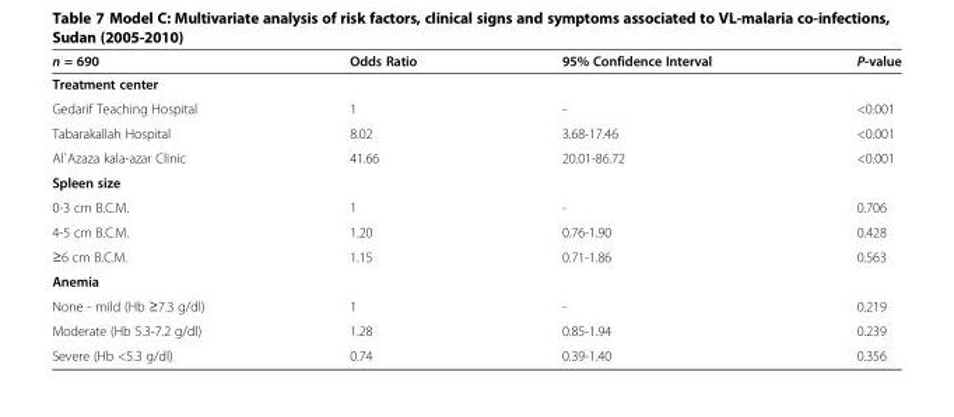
<table><thead><tr><td>n = 690</td><td>Odds Ratio</td><td>95% Confidence Interval</td><td>P-value</td></tr></thead><tbody><tr><td colspan="4">Treatment center</td></tr><tr><td>Gedarif Teaching Hospital</td><td>1</td><td>-</td><td>&lt;0.001</td></tr><tr><td>Tabarakallah Hospital</td><td>8.02</td><td>3.68-17.46</td><td>&lt;0.001</td></tr><tr><td>Al`Azaza kala-azar Clinic</td><td>41.66</td><td>20.01-86.72</td><td>&lt;0.001</td></tr><tr><td colspan="4">Spleen size</td></tr><tr><td>0-3 cm B.C.M.</td><td>1</td><td>-</td><td>0.706</td></tr><tr><td>4-5 cm B.C.M.</td><td>1.20</td><td>0.76-1.90</td><td>0.428</td></tr><tr><td>≥6 cm B.C.M.</td><td>1.15</td><td>0.71-1.86</td><td>0.563</td></tr><tr><td colspan="4">Anemia</td></tr><tr><td>None - mild (Hb ≥7.3 g/dl)</td><td>1</td><td>-</td><td>0.219</td></tr><tr><td>Moderate (Hb 5.3-7.2 g/dl)</td><td>1.28</td><td>0.85-1.94</td><td>0.239</td></tr><tr><td>Severe (Hb &lt;5.3 g/dl)</td><td>0.74</td><td>0.39-1.40</td><td>0.356</td></tr></tbody></table>